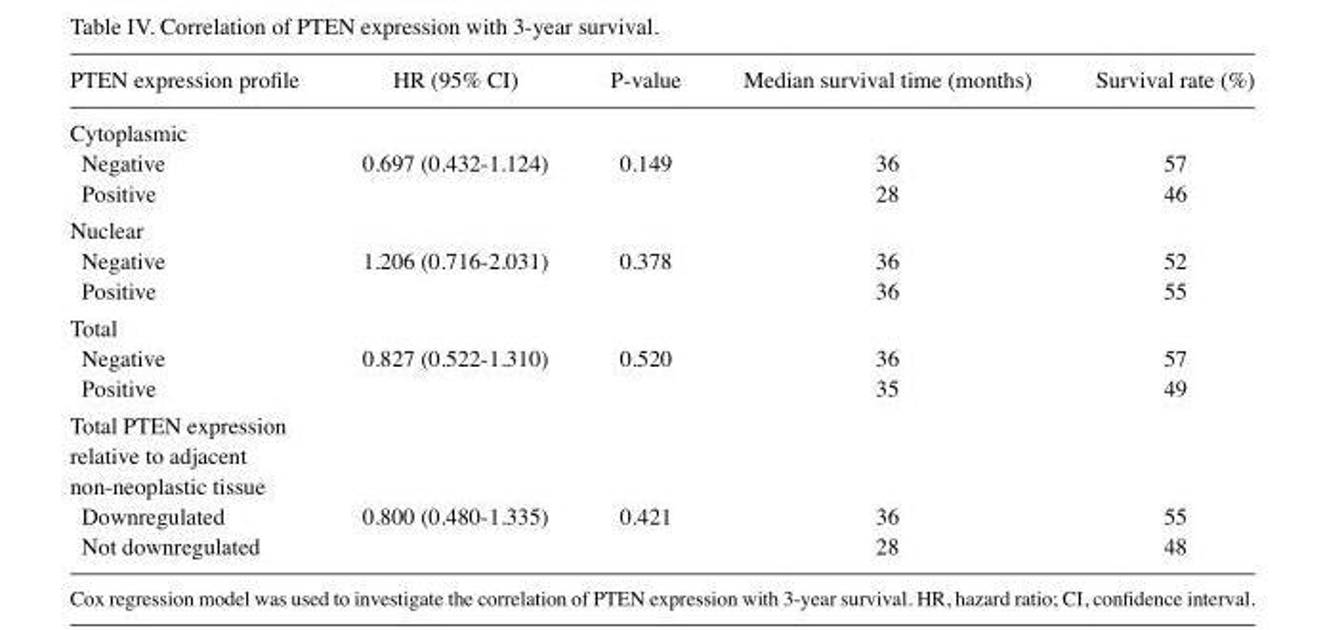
<table><thead><tr><td>PTEN expression profile</td><td>HR (95% CI)</td><td>P‑value</td><td>Median survival time (months)</td><td>Survival rate (%)</td></tr></thead><tbody><tr><td colspan="5">Cytoplasmic</td></tr><tr><td>Negative</td><td>0.697 (0.432-1.124)</td><td>0.149</td><td>36</td><td>57</td></tr><tr><td>Positive</td><td></td><td></td><td>28</td><td>46</td></tr><tr><td colspan="5">Nuclear</td></tr><tr><td>Negative</td><td>1.206 (0.716‑2.031)</td><td>0.378</td><td>36</td><td>52</td></tr><tr><td>Positive</td><td></td><td></td><td>36</td><td>55</td></tr><tr><td colspan="5">Total</td></tr><tr><td>Negative</td><td>0.827 (0.522‑1.310)</td><td>0.520</td><td>36</td><td>57</td></tr><tr><td>Positive</td><td></td><td></td><td>35</td><td>49</td></tr><tr><td colspan="5">Total PTEN expression relative to adjacent non-neoplastic tissue</td></tr><tr><td>Downregulated</td><td>0.800 (0.480‑1.335)</td><td>0.421</td><td>36</td><td>55</td></tr><tr><td>Not downregulated</td><td></td><td></td><td>28</td><td>48</td></tr></tbody></table>